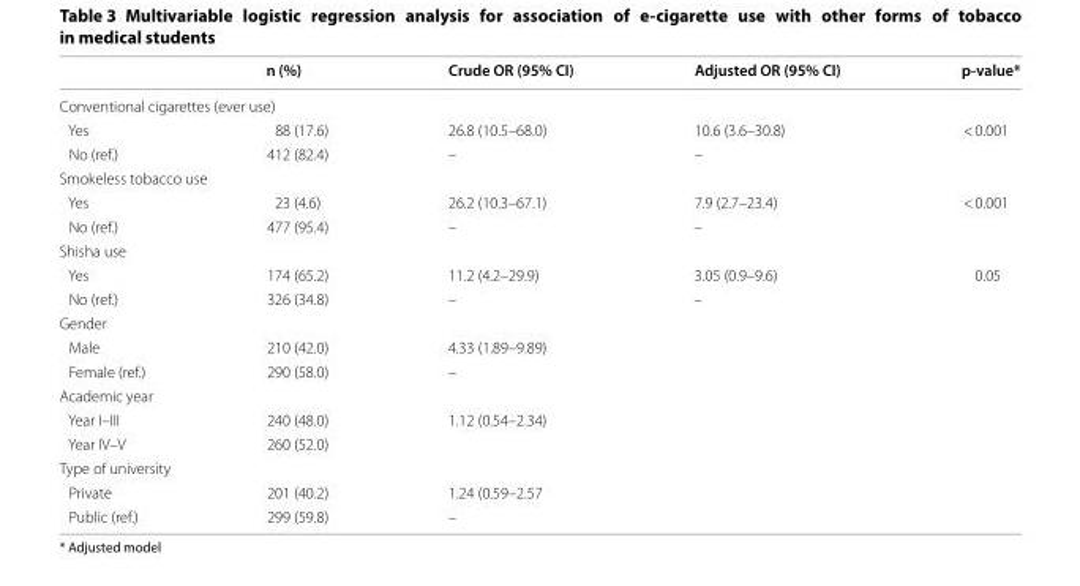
<table><thead><tr><td></td><td>n (%)</td><td>Crude OR (95% CI)</td><td>Adjusted OR (95% CI)</td><td>p-value*</td></tr></thead><tbody><tr><td colspan="5">Conventional cigarettes (ever use)</td></tr><tr><td>Yes</td><td>88 (17.6)</td><td>26.8 (10.5–68.0)</td><td>10.6 (3.6–30.8)</td><td>&lt; 0.001</td></tr><tr><td>No (ref.)</td><td>412 (82.4)</td><td>–</td><td>–</td><td></td></tr><tr><td colspan="5">Smokeless tobacco use</td></tr><tr><td>Yes</td><td>23 (4.6)</td><td>26.2 (10.3–67.1)</td><td>7.9 (2.7–23.4)</td><td>&lt; 0.001</td></tr><tr><td>No (ref.)</td><td>477 (95.4)</td><td>–</td><td>–</td><td></td></tr><tr><td colspan="5">Shisha use</td></tr><tr><td>Yes</td><td>174 (65.2)</td><td>11.2 (4.2–29.9)</td><td>3.05 (0.9–9.6)</td><td>0.05</td></tr><tr><td>No (ref.)</td><td>326 (34.8)</td><td>–</td><td>–</td><td></td></tr><tr><td colspan="5">Gender</td></tr><tr><td>Male</td><td>210 (42.0)</td><td>4.33 (1.89–9.89)</td><td></td><td></td></tr><tr><td>Female (ref.)</td><td>290 (58.0)</td><td>–</td><td></td><td></td></tr><tr><td colspan="5">Academic year</td></tr><tr><td>Year I–III</td><td>240 (48.0)</td><td rowspan="2">1.12 (0.54–2.34)</td><td rowspan="2"></td><td rowspan="2"></td></tr><tr><td>Year IV–V</td><td>260 (52.0)</td></tr><tr><td colspan="5">Type of university</td></tr><tr><td>Private</td><td>201 (40.2)</td><td>1.24 (0.59–2.57</td><td></td><td></td></tr><tr><td>Public (ref.)</td><td>299 (59.8)</td><td>–</td><td></td><td></td></tr></tbody></table>